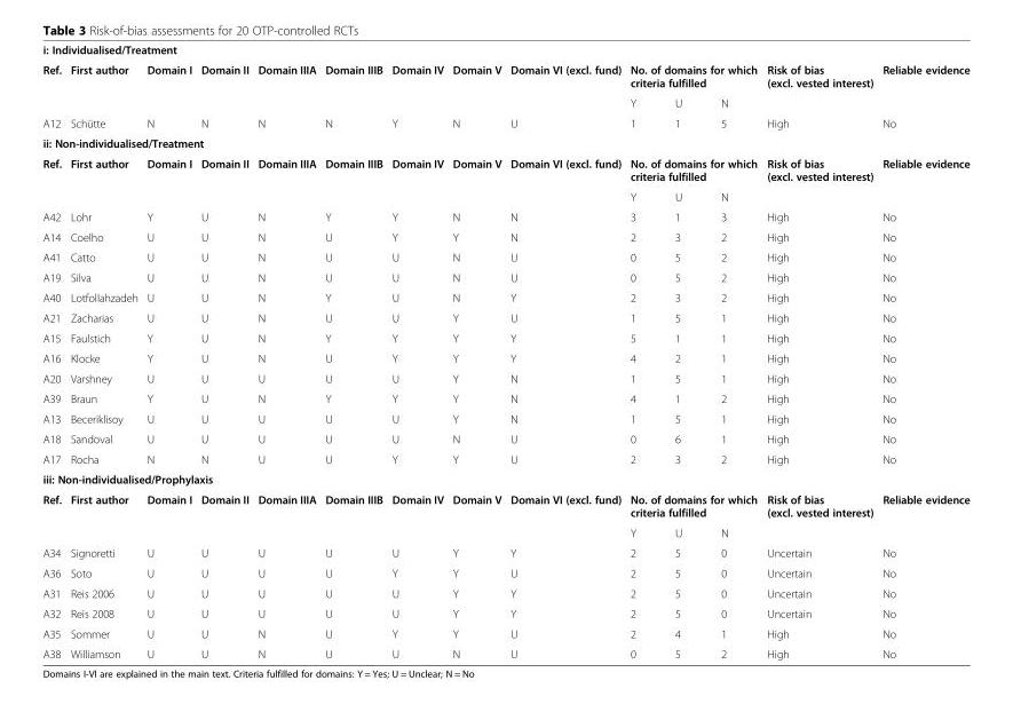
<table><tbody><tr><td colspan="14">i: Individualised/Treatment</td></tr><tr><td rowspan="2">Ref.</td><td>First author</td><td>Domain I</td><td>Domain II</td><td>Domain IIIA</td><td>Domain IIIB</td><td>Domain IV</td><td>Domain V</td><td>Domain VI (excl. fund)</td><td colspan="3">No. of domains for which criteria fulfilled</td><td>Risk of bias (excl. vested interest)</td><td>Reliable evidence</td></tr><tr><td></td><td></td><td></td><td></td><td></td><td></td><td></td><td></td><td>Y</td><td>U</td><td>N</td><td></td><td></td></tr><tr><td>A12</td><td>Schütte</td><td>N</td><td>N</td><td>N</td><td>N</td><td>Y</td><td>N</td><td>U</td><td>1</td><td>1</td><td>5</td><td>High</td><td>No</td></tr><tr><td colspan="14">ii: Non-individualised/Treatment</td></tr><tr><td rowspan="2">Ref.</td><td>First author</td><td>Domain I</td><td>Domain II</td><td>Domain IIIA</td><td>Domain IIIB</td><td>Domain IV</td><td>Domain V</td><td>Domain VI (excl. fund)</td><td colspan="3">No. of domains for which criteria fulfilled</td><td>Risk of bias (excl. vested interest)</td><td>Reliable evidence</td></tr><tr><td></td><td></td><td></td><td></td><td></td><td></td><td></td><td></td><td>Y</td><td>U</td><td>N</td><td></td><td></td></tr><tr><td>A42</td><td>Lohr</td><td>Y</td><td>U</td><td>N</td><td>Y</td><td>Y</td><td>N</td><td>N</td><td>3</td><td>1</td><td>3</td><td>High</td><td>No</td></tr><tr><td>A14</td><td>Coelho</td><td>U</td><td>U</td><td>N</td><td>U</td><td>Y</td><td>Y</td><td>N</td><td>2</td><td>3</td><td>2</td><td>High</td><td>No</td></tr><tr><td>A41</td><td>Catto</td><td>U</td><td>U</td><td>N</td><td>U</td><td>U</td><td>N</td><td>U</td><td>0</td><td>5</td><td>2</td><td>High</td><td>No</td></tr><tr><td>A19</td><td>Silva</td><td>U</td><td>U</td><td>N</td><td>U</td><td>U</td><td>N</td><td>U</td><td>0</td><td>5</td><td>2</td><td>High</td><td>No</td></tr><tr><td>A40</td><td>Lotfollahzadeh</td><td>U</td><td>U</td><td>N</td><td>Y</td><td>U</td><td>N</td><td>Y</td><td>2</td><td>3</td><td>2</td><td>High</td><td>No</td></tr><tr><td>A21</td><td>Zacharias</td><td>U</td><td>U</td><td>N</td><td>U</td><td>U</td><td>Y</td><td>U</td><td>1</td><td>5</td><td>1</td><td>High</td><td>No</td></tr><tr><td>A15</td><td>Faulstich</td><td>Y</td><td>U</td><td>N</td><td>Y</td><td>Y</td><td>Y</td><td>Y</td><td>5</td><td>1</td><td>1</td><td>High</td><td>No</td></tr><tr><td>A16</td><td>Klocke</td><td>Y</td><td>U</td><td>N</td><td>U</td><td>Y</td><td>Y</td><td>Y</td><td>4</td><td>2</td><td>1</td><td>High</td><td>No</td></tr><tr><td>A20</td><td>Varshney</td><td>U</td><td>U</td><td>U</td><td>U</td><td>U</td><td>Y</td><td>N</td><td>1</td><td>5</td><td>1</td><td>High</td><td>No</td></tr><tr><td>A39</td><td>Braun</td><td>Y</td><td>U</td><td>N</td><td>Y</td><td>Y</td><td>Y</td><td>N</td><td>4</td><td>1</td><td>2</td><td>High</td><td>No</td></tr><tr><td>A13</td><td>Beceriklisoy</td><td>U</td><td>U</td><td>U</td><td>U</td><td>U</td><td>Y</td><td>N</td><td>1</td><td>5</td><td>1</td><td>High</td><td>No</td></tr><tr><td>A18</td><td>Sandoval</td><td>U</td><td>U</td><td>U</td><td>U</td><td>U</td><td>N</td><td>U</td><td>0</td><td>6</td><td>1</td><td>High</td><td>No</td></tr><tr><td>A17</td><td>Rocha</td><td>N</td><td>N</td><td>U</td><td>U</td><td>Y</td><td>Y</td><td>U</td><td>2</td><td>3</td><td>2</td><td>High</td><td>No</td></tr><tr><td colspan="14">iii: Non-individualised/Prophylaxis</td></tr><tr><td rowspan="2">Ref.</td><td>First author</td><td>Domain I</td><td>Domain II</td><td>Domain IIIA</td><td>Domain IIIB</td><td>Domain IV</td><td>Domain V</td><td>Domain VI (excl. fund)</td><td colspan="3">No. of domains for which criteria fulfilled</td><td>Risk of bias (excl. vested interest)</td><td>Reliable evidence</td></tr><tr><td></td><td></td><td></td><td></td><td></td><td></td><td></td><td></td><td>Y</td><td>U</td><td>N</td><td></td><td></td></tr><tr><td>A34</td><td>Signoretti</td><td>U</td><td>U</td><td>U</td><td>U</td><td>U</td><td>Y</td><td>Y</td><td>2</td><td>5</td><td>0</td><td>Uncertain</td><td>No</td></tr><tr><td>A36</td><td>Soto</td><td>U</td><td>U</td><td>U</td><td>U</td><td>Y</td><td>Y</td><td>U</td><td>2</td><td>5</td><td>0</td><td>Uncertain</td><td>No</td></tr><tr><td>A31</td><td>Reis 2006</td><td>U</td><td>U</td><td>U</td><td>U</td><td>U</td><td>Y</td><td>Y</td><td>2</td><td>5</td><td>0</td><td>Uncertain</td><td>No</td></tr><tr><td>A32</td><td>Reis 2008</td><td>U</td><td>U</td><td>U</td><td>U</td><td>U</td><td>Y</td><td>Y</td><td>2</td><td>5</td><td>0</td><td>Uncertain</td><td>No</td></tr><tr><td>A35</td><td>Sommer</td><td>U</td><td>U</td><td>N</td><td>U</td><td>Y</td><td>Y</td><td>U</td><td>2</td><td>4</td><td>1</td><td>High</td><td>No</td></tr><tr><td>A38</td><td>Williamson</td><td>U</td><td>U</td><td>N</td><td>U</td><td>U</td><td>N</td><td>U</td><td>0</td><td>5</td><td>2</td><td>High</td><td>No</td></tr></tbody></table>